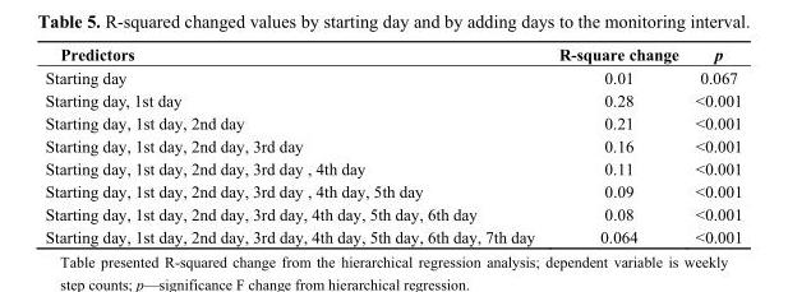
<table><thead><tr><td>Predictors</td><td>R-square change</td><td>p</td></tr></thead><tbody><tr><td>Starting day</td><td>0.01</td><td>0.067</td></tr><tr><td>Starting day, 1st day</td><td>0.28</td><td>&lt;0.001</td></tr><tr><td>Starting day, 1st day, 2nd day</td><td>0.21</td><td>&lt;0.001</td></tr><tr><td>Starting day, 1st day, 2nd day, 3rd day</td><td>0.16</td><td>&lt;0.001</td></tr><tr><td>Starting day, 1st day, 2nd day, 3rd day , 4th day</td><td>0.11</td><td>&lt;0.001</td></tr><tr><td>Starting day, 1st day, 2nd day, 3rd day , 4th day, 5th day</td><td>0.09</td><td>&lt;0.001</td></tr><tr><td>Starting day, 1st day, 2nd day, 3rd day, 4th day, 5th day, 6th day</td><td>0.08</td><td>&lt;0.001</td></tr><tr><td>Starting day, 1st day, 2nd day, 3rd day, 4th day, 5th day, 6th day, 7th day</td><td>0.064</td><td>&lt;0.001</td></tr></tbody></table>